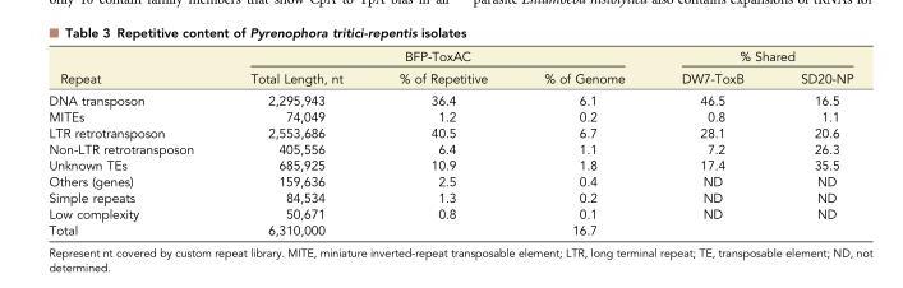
<table><thead><tr><td rowspan="2">Repeat</td><td colspan="3">BFP-ToxAC</td><td colspan="2">% Shared</td></tr><tr><td>Total Length, nt</td><td>% of Repetitive</td><td>% of Genome</td><td>DW7-ToxB</td><td>SD20-NP</td></tr></thead><tbody><tr><td>DNA transposon</td><td>2,295,943</td><td>36.4</td><td>6.1</td><td>46.5</td><td>16.5</td></tr><tr><td>MITEs</td><td>74,049</td><td>1.2</td><td>0.2</td><td>0.8</td><td>1.1</td></tr><tr><td>LTR retrotransposon</td><td>2,553,686</td><td>40.5</td><td>6.7</td><td>28.1</td><td>20.6</td></tr><tr><td>Non-LTR retrotransposon</td><td>405,556</td><td>6.4</td><td>1.1</td><td>7.2</td><td>26.3</td></tr><tr><td>Unknown TEs</td><td>685,925</td><td>10.9</td><td>1.8</td><td>17.4</td><td>35.5</td></tr><tr><td>Others (genes)</td><td>159,636</td><td>2.5</td><td>0.4</td><td>ND</td><td>ND</td></tr><tr><td>Simple repeats</td><td>84,534</td><td>1.3</td><td>0.2</td><td>ND</td><td>ND</td></tr><tr><td>Low complexity</td><td>50,671</td><td>0.8</td><td>0.1</td><td>ND</td><td>ND</td></tr><tr><td>Total</td><td>6,310,000</td><td></td><td>16.7</td><td></td><td></td></tr></tbody></table>